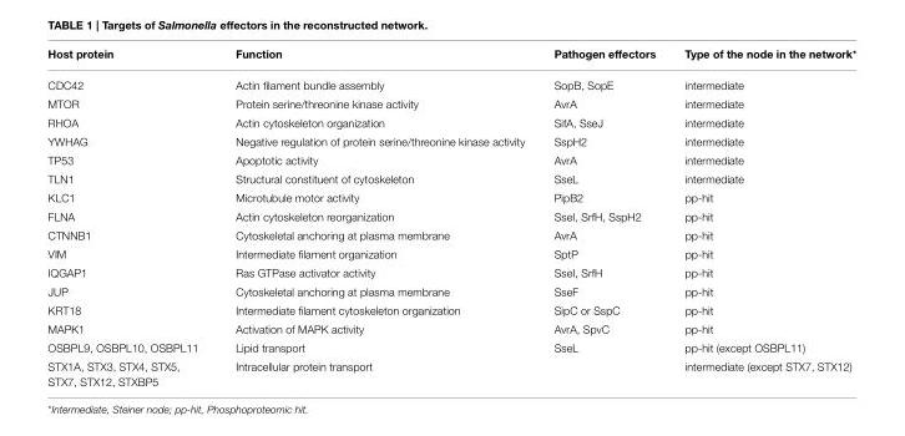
<table><thead><tr><td>Host protein</td><td>Function</td><td>Pathogen effectors</td><td>Type of the node in the network*</td></tr></thead><tbody><tr><td>CDC42</td><td>Actin filament bundle assembly</td><td>SopB, SopE</td><td>intermediate</td></tr><tr><td>MTOR</td><td>Protein serine/threonine kinase activity</td><td>AvrA</td><td>intermediate</td></tr><tr><td>RHOA</td><td>Actin cytoskeleton organization</td><td>SifA, SseJ</td><td>intermediate</td></tr><tr><td>YWHAG</td><td>Negative regulation of protein serine/threonine kinase activity</td><td>SspH2</td><td>intermediate</td></tr><tr><td>TP53</td><td>Apoptotic activity</td><td>AvrA</td><td>intermediate</td></tr><tr><td>TLN1</td><td>Structural constituent of cytoskeleton</td><td>SseL</td><td>intermediate</td></tr><tr><td>KLC1</td><td>Microtubule motor activity</td><td>PipB2</td><td>pp-hit</td></tr><tr><td>FLNA</td><td>Actin cytoskeleton reorganization</td><td>SseI, SrfH, SspH2</td><td>pp-hit</td></tr><tr><td>CTNNB1</td><td>Cytoskeletal anchoring at plasma membrane</td><td>AvrA</td><td>pp-hit</td></tr><tr><td>VIM</td><td>Intermediate filament organization</td><td>SptP</td><td>pp-hit</td></tr><tr><td>IQGAP1</td><td>Ras GTPase activator activity</td><td>SseI, SrfH</td><td>pp-hit</td></tr><tr><td>JUP</td><td>Cytoskeletal anchoring at plasma membrane</td><td>SseF</td><td>pp-hit</td></tr><tr><td>KRT18</td><td>Intermediate filament cytoskeleton organization</td><td>SipC or SspC</td><td>pp-hit</td></tr><tr><td>MAPK1</td><td>Activation of MAPK activity</td><td>AvrA, SpvC</td><td>pp-hit</td></tr><tr><td>OSBPL9, OSBPL10, OSBPL11</td><td>Lipid transport</td><td>SseL</td><td>pp-hit (except OSBPL11)</td></tr><tr><td>STX1A, STX3, STX4, STX5, STX7, STX12, STXBP5</td><td>Intracellular protein transport</td><td></td><td>intermediate (except STX7, STX12)</td></tr></tbody></table>